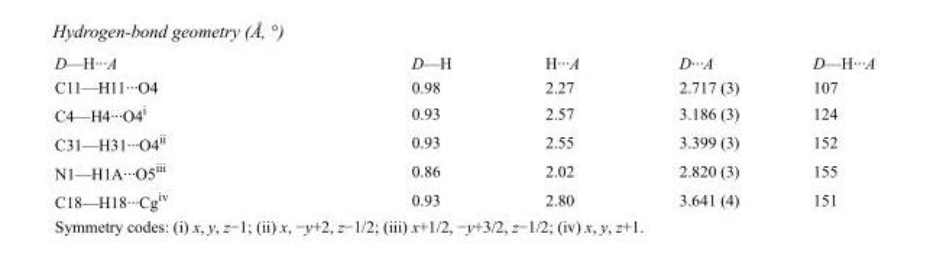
<table><tbody><tr><td>D—H···A</td><td>D—H</td><td>H···A</td><td>D···A</td><td>D—H···A</td></tr><tr><td>C11—H11···O4</td><td>0.98</td><td>2.27</td><td>2.717 (3)</td><td>107</td></tr><tr><td>C4—H4···O4<sup>i</sup></td><td>0.93</td><td>2.57</td><td>3.186 (3)</td><td>124</td></tr><tr><td>C31—H31···O4<sup>ii</sup></td><td>0.93</td><td>2.55</td><td>3.399 (3)</td><td>152</td></tr><tr><td>N1—H1A···O5<sup>iii</sup></td><td>0.86</td><td>2.02</td><td>2.820 (3)</td><td>155</td></tr><tr><td>C18—H18···Cg<sup>iv</sup></td><td>0.93</td><td>2.80</td><td>3.641 (4)</td><td>151</td></tr></tbody></table>